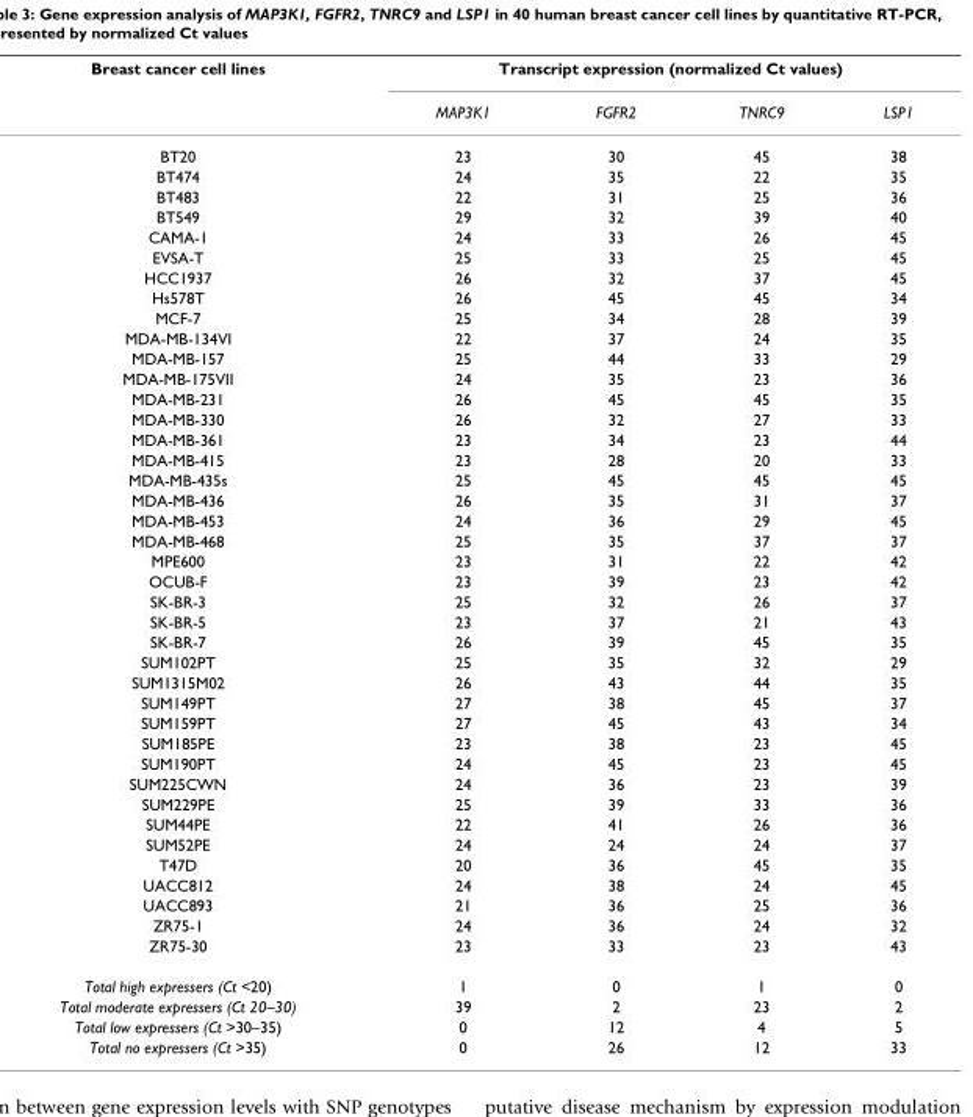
<table><thead><tr><td rowspan="2">Breast cancer cell lines</td><td colspan="4">Transcript expression (normalized Ct values)</td></tr><tr><td>MAP3K1</td><td>FGFR2</td><td>TNRC9</td><td>LSP1</td></tr></thead><tbody><tr><td>BT20</td><td>23</td><td>30</td><td>45</td><td>38</td></tr><tr><td>BT474</td><td>24</td><td>35</td><td>22</td><td>35</td></tr><tr><td>BT483</td><td>22</td><td>31</td><td>25</td><td>36</td></tr><tr><td>BT549</td><td>29</td><td>32</td><td>39</td><td>40</td></tr><tr><td>CAMA-1</td><td>24</td><td>33</td><td>26</td><td>45</td></tr><tr><td>EVSA-T</td><td>25</td><td>33</td><td>25</td><td>45</td></tr><tr><td>HCC1937</td><td>26</td><td>32</td><td>37</td><td>45</td></tr><tr><td>Hs578T</td><td>26</td><td>45</td><td>45</td><td>34</td></tr><tr><td>MCF-7</td><td>25</td><td>34</td><td>28</td><td>39</td></tr><tr><td>MDA-MB-134VI</td><td>22</td><td>37</td><td>24</td><td>35</td></tr><tr><td>MDA-MB-157</td><td>25</td><td>44</td><td>33</td><td>29</td></tr><tr><td>MDA-MB-175VII</td><td>24</td><td>35</td><td>23</td><td>36</td></tr><tr><td>MDA-MB-231</td><td>26</td><td>45</td><td>45</td><td>35</td></tr><tr><td>MDA-MB-330</td><td>26</td><td>32</td><td>27</td><td>33</td></tr><tr><td>MDA-MB-361</td><td>23</td><td>34</td><td>23</td><td>44</td></tr><tr><td>MDA-MB-415</td><td>23</td><td>28</td><td>20</td><td>33</td></tr><tr><td>MDA-MB-435s</td><td>25</td><td>45</td><td>45</td><td>45</td></tr><tr><td>MDA-MB-436</td><td>26</td><td>35</td><td>31</td><td>37</td></tr><tr><td>MDA-MB-453</td><td>24</td><td>36</td><td>29</td><td>45</td></tr><tr><td>MDA-MB-468</td><td>25</td><td>35</td><td>37</td><td>37</td></tr><tr><td>MPE600</td><td>23</td><td>31</td><td>22</td><td>42</td></tr><tr><td>OCUB-F</td><td>23</td><td>39</td><td>23</td><td>42</td></tr><tr><td>SK-BR-3</td><td>25</td><td>32</td><td>26</td><td>37</td></tr><tr><td>SK-BR-5</td><td>23</td><td>37</td><td>21</td><td>43</td></tr><tr><td>SK-BR-7</td><td>26</td><td>39</td><td>45</td><td>35</td></tr><tr><td>SUM102PT</td><td>25</td><td>35</td><td>32</td><td>29</td></tr><tr><td>SUM1315M02</td><td>26</td><td>43</td><td>44</td><td>35</td></tr><tr><td>SUM149PT</td><td>27</td><td>38</td><td>45</td><td>37</td></tr><tr><td>SUM159PT</td><td>27</td><td>45</td><td>43</td><td>34</td></tr><tr><td>SUM185PE</td><td>23</td><td>38</td><td>23</td><td>45</td></tr><tr><td>SUM190PT</td><td>24</td><td>45</td><td>23</td><td>45</td></tr><tr><td>SUM225CWN</td><td>24</td><td>36</td><td>23</td><td>39</td></tr><tr><td>SUM229PE</td><td>25</td><td>39</td><td>33</td><td>36</td></tr><tr><td>SUM44PE</td><td>22</td><td>41</td><td>26</td><td>36</td></tr><tr><td>SUM52PE</td><td>24</td><td>24</td><td>24</td><td>37</td></tr><tr><td>T47D</td><td>20</td><td>36</td><td>45</td><td>35</td></tr><tr><td>UACC812</td><td>24</td><td>38</td><td>24</td><td>45</td></tr><tr><td>UACC893</td><td>21</td><td>36</td><td>25</td><td>36</td></tr><tr><td>ZR75-1</td><td>24</td><td>36</td><td>24</td><td>32</td></tr><tr><td>ZR75-30</td><td>23</td><td>33</td><td>23</td><td>43</td></tr><tr><td>Total high expressers (Ct &lt;20)</td><td>1</td><td>0</td><td>1</td><td>0</td></tr><tr><td>Total moderate expressers (Ct 20–30)</td><td>39</td><td>2</td><td>23</td><td>2</td></tr><tr><td>Total low expressers (Ct &gt;30–35)</td><td>0</td><td>12</td><td>4</td><td>5</td></tr><tr><td>Total no expressers (Ct &gt;35)</td><td>0</td><td>26</td><td>12</td><td>33</td></tr></tbody></table>